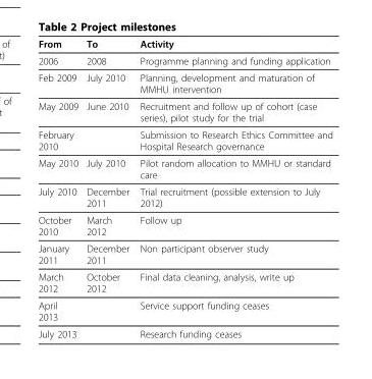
<table><thead><tr><td>From</td><td>To</td><td>Activity</td></tr></thead><tbody><tr><td>2006</td><td>2008</td><td>Programme planning and funding application</td></tr><tr><td>Feb 2009</td><td>July 2010</td><td>Planning, development and maturation of MMHU intervention</td></tr><tr><td>May 2009</td><td>June 2010</td><td>Recruitment and follow up of cohort (case series), pilot study for the trial</td></tr><tr><td>February 2010</td><td></td><td>Submission to Research Ethics Committee and Hospital Research governance</td></tr><tr><td>May 2010</td><td>July 2010</td><td>Pilot random allocation to MMHU or standard care</td></tr><tr><td>July 2010</td><td>December 2011</td><td>Trial recruitment (possible extension to July 2012)</td></tr><tr><td>October 2010</td><td>March 2012</td><td>Follow up</td></tr><tr><td>January 2011</td><td>December 2011</td><td>Non participant observer study</td></tr><tr><td>March 2012</td><td>October 2012</td><td>Final data cleaning, analysis, write up</td></tr><tr><td>April 2013</td><td></td><td>Service support funding ceases</td></tr><tr><td>July 2013</td><td></td><td>Research funding ceases</td></tr></tbody></table>